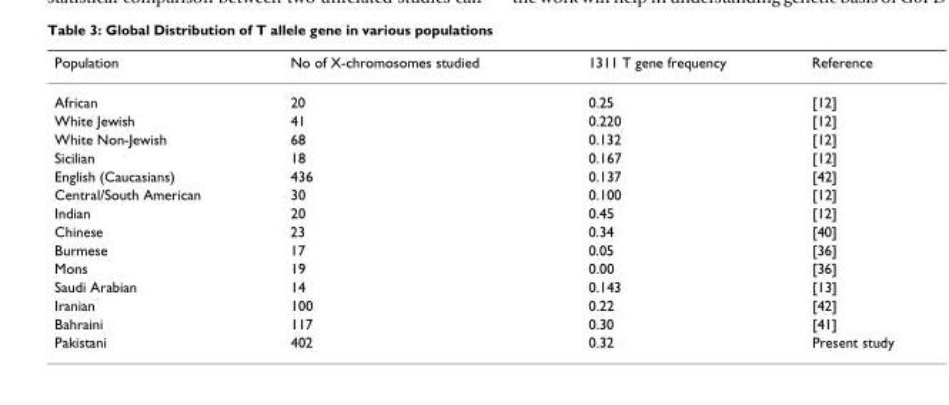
<table><thead><tr><td>Population</td><td>No of X-chromosomes studied</td><td>1311 T gene frequency</td><td>Reference</td></tr></thead><tbody><tr><td>African</td><td>20</td><td>0.25</td><td>[12]</td></tr><tr><td>White Jewish</td><td>41</td><td>0.220</td><td>[12]</td></tr><tr><td>White Non-Jewish</td><td>68</td><td>0.132</td><td>[12]</td></tr><tr><td>Sicilian</td><td>18</td><td>0.167</td><td>[12]</td></tr><tr><td>English (Caucasians)</td><td>436</td><td>0.137</td><td>[42]</td></tr><tr><td>Central/South American</td><td>30</td><td>0.100</td><td>[12]</td></tr><tr><td>Indian</td><td>20</td><td>0.45</td><td>[12]</td></tr><tr><td>Chinese</td><td>23</td><td>0.34</td><td>[40]</td></tr><tr><td>Burmese</td><td>17</td><td>0.05</td><td>[36]</td></tr><tr><td>Mons</td><td>19</td><td>0.00</td><td>[36]</td></tr><tr><td>Saudi Arabian</td><td>14</td><td>0.143</td><td>[13]</td></tr><tr><td>Iranian</td><td>100</td><td>0.22</td><td>[42]</td></tr><tr><td>Bahraini</td><td>117</td><td>0.30</td><td>[41]</td></tr><tr><td>Pakistani</td><td>402</td><td>0.32</td><td>Present study</td></tr></tbody></table>